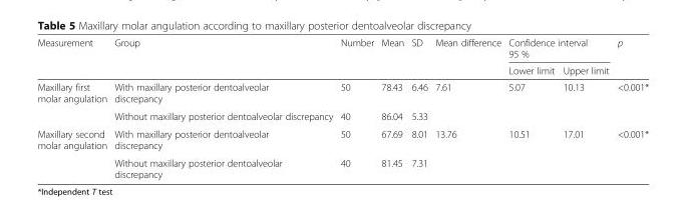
<table><thead><tr><td rowspan="2">Measurement</td><td rowspan="2">Group</td><td rowspan="2">Number</td><td rowspan="2">Mean</td><td rowspan="2">SD</td><td rowspan="2">Mean difference</td><td colspan="2">Confidence interval 95 %</td><td rowspan="2">p</td></tr><tr><td>Lower limit</td><td>Upper limit</td></tr></thead><tbody><tr><td rowspan="2">Maxillary first molar angulation</td><td>With maxillary posterior dentoalveolar discrepancy</td><td>50</td><td>78.43</td><td>6.46</td><td rowspan="2">7.61</td><td rowspan="2">5.07</td><td rowspan="2">10.13</td><td rowspan="2">&lt;0.001*</td></tr><tr><td>Without maxillary posterior dentoalveolar discrepancy</td><td>40</td><td>86.04</td><td>5.33</td></tr><tr><td rowspan="2">Maxillary second molar angulation</td><td>With maxillary posterior dentoalveolar discrepancy</td><td>50</td><td>67.69</td><td>8.01</td><td rowspan="2">13.76</td><td rowspan="2">10.51</td><td rowspan="2">17.01</td><td rowspan="2">&lt;0.001*</td></tr><tr><td>Without maxillary posterior dentoalveolar discrepancy</td><td>40</td><td>81.45</td><td>7.31</td></tr></tbody></table>